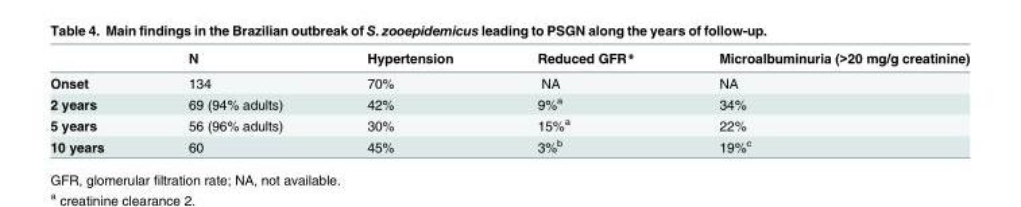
<table><thead><tr><td></td><td>N</td><td>Hypertension</td><td>Reduced GFR*</td><td>Microalbuminuria (&gt;20 mg/g creatinine)</td></tr></thead><tbody><tr><td>Onset</td><td>134</td><td>70%</td><td>NA</td><td>NA</td></tr><tr><td>2 years</td><td>69 (94% adults)</td><td>42%</td><td>9%<sup>a</sup></td><td>34%</td></tr><tr><td>5 years</td><td>56 (96% adults)</td><td>30%</td><td>15%<sup>a</sup></td><td>22%</td></tr><tr><td>10 years</td><td>60</td><td>45%</td><td>3%<sup>b</sup></td><td>19%<sup>c</sup></td></tr></tbody></table>